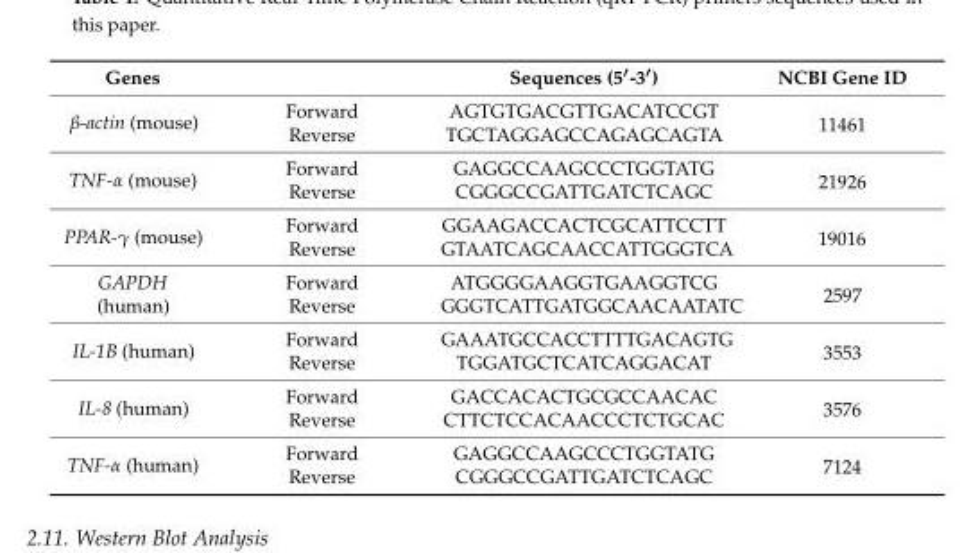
<table><thead><tr><td>Genes</td><td></td><td>Sequences (5′-3′)</td><td>NCBI Gene ID</td></tr></thead><tbody><tr><td rowspan="2">β-actin (mouse)</td><td>Forward</td><td>AGTGTGACGTTGACATCCGT</td><td rowspan="2">11461</td></tr><tr><td>Reverse</td><td>TGCTAGGAGCCAGAGCAGTA</td></tr><tr><td rowspan="2">TNF-α (mouse)</td><td>Forward</td><td>GAGGCCAAGCCCTGGTATG</td><td rowspan="2">21926</td></tr><tr><td>Reverse</td><td>CGGGCCGATTGATCTCAGC</td></tr><tr><td rowspan="2">PPAR-γ (mouse)</td><td>Forward</td><td>GGAAGACCACTCGCATTCCTT</td><td rowspan="2">19016</td></tr><tr><td>Reverse</td><td>GTAATCAGCAACCATTGGGTCA</td></tr><tr><td rowspan="2">GAPDH (human)</td><td>Forward</td><td>ATGGGGAAGGTGAAGGTCG</td><td rowspan="2">2597</td></tr><tr><td>Reverse</td><td>GGGTCATTGATGGCAACAATATC</td></tr><tr><td rowspan="2">IL-1B (human)</td><td>Forward</td><td>GAAATGCCACCTTTTGACAGTG</td><td rowspan="2">3553</td></tr><tr><td>Reverse</td><td>TGGATGCTCATCAGGACAT</td></tr><tr><td rowspan="2">IL-8 (human)</td><td>Forward</td><td>GACCACACTGCGCCAACAC</td><td rowspan="2">3576</td></tr><tr><td>Reverse</td><td>CTTCTCCACAACCCTCTGCAC</td></tr><tr><td rowspan="2">TNF-α (human)</td><td>Forward</td><td>GAGGCCAAGCCCTGGTATG</td><td rowspan="2">7124</td></tr><tr><td>Reverse</td><td>CGGGCCGATTGATCTCAGC</td></tr></tbody></table>